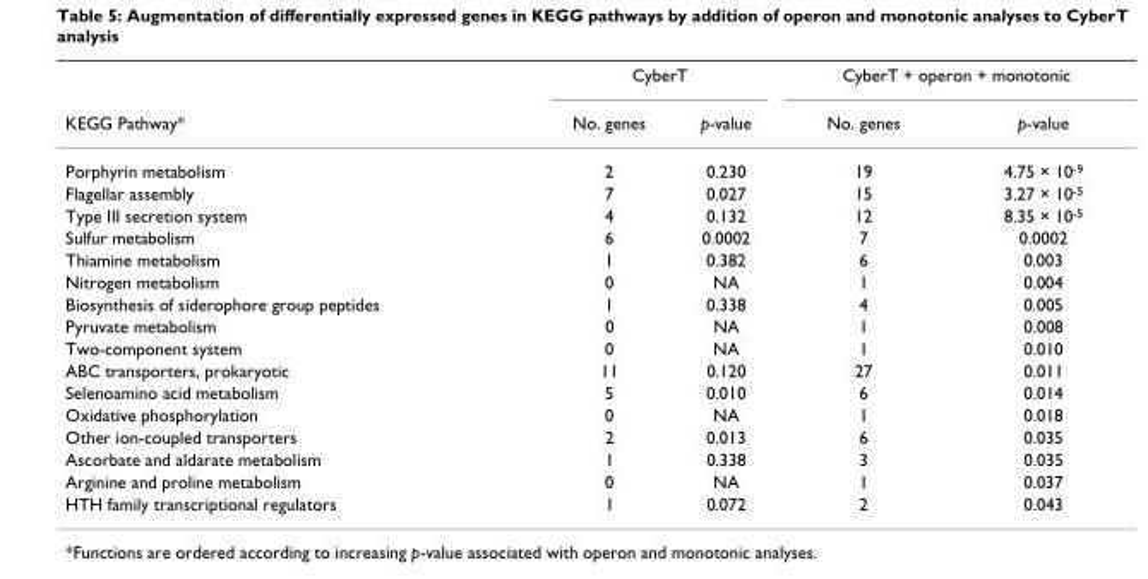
<table><thead><tr><td rowspan="2">KEGG Pathway*</td><td colspan="2">CyberT</td><td colspan="2">CyberT + operon + monotonic</td></tr><tr><td>No. genes</td><td>p-value</td><td>No. genes</td><td>p-value</td></tr></thead><tbody><tr><td>Porphyrin metabolism</td><td>2</td><td>0.230</td><td>19</td><td>4.75 × 10<sup>-9</sup></td></tr><tr><td>Flagellar assembly</td><td>7</td><td>0.027</td><td>15</td><td>3.27 × 10<sup>-5</sup></td></tr><tr><td>Type III secretion system</td><td>4</td><td>0.132</td><td>12</td><td>8.35 × 10<sup>-5</sup></td></tr><tr><td>Sulfur metabolism</td><td>6</td><td>0.0002</td><td>7</td><td>0.0002</td></tr><tr><td>Thiamine metabolism</td><td>1</td><td>0.382</td><td>6</td><td>0.003</td></tr><tr><td>Nitrogen metabolism</td><td>0</td><td>NA</td><td>1</td><td>0.004</td></tr><tr><td>Biosynthesis of siderophore group peptides</td><td>1</td><td>0.338</td><td>4</td><td>0.005</td></tr><tr><td>Pyruvate metabolism</td><td>0</td><td>NA</td><td>1</td><td>0.008</td></tr><tr><td>Two-component system</td><td>0</td><td>NA</td><td>1</td><td>0.010</td></tr><tr><td>ABC transporters, prokaryotic</td><td>11</td><td>0.120</td><td>27</td><td>0.011</td></tr><tr><td>Selenoamino acid metabolism</td><td>5</td><td>0.010</td><td>6</td><td>0.014</td></tr><tr><td>Oxidative phosphorylation</td><td>0</td><td>NA</td><td>1</td><td>0.018</td></tr><tr><td>Other ion-coupled transporters</td><td>2</td><td>0.013</td><td>6</td><td>0.035</td></tr><tr><td>Ascorbate and aldarate metabolism</td><td>1</td><td>0.338</td><td>3</td><td>0.035</td></tr><tr><td>Arginine and proline metabolism</td><td>0</td><td>NA</td><td>1</td><td>0.037</td></tr><tr><td>HTH family transcriptional regulators</td><td>1</td><td>0.072</td><td>2</td><td>0.043</td></tr></tbody></table>